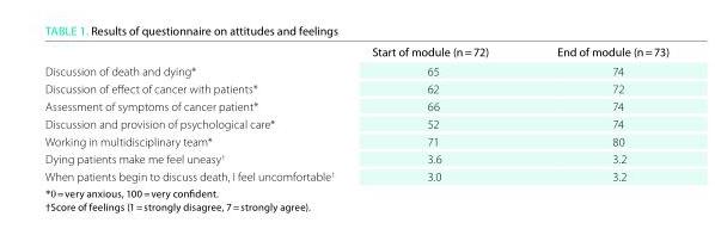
<table><thead><tr><td></td><td>Start of module (n = 72)</td><td>end of module (n = 73)</td></tr></thead><tbody><tr><td>Discussion of death and dying*</td><td>65</td><td>74</td></tr><tr><td>Discussion of effect of cancer with patients*</td><td>62</td><td>72</td></tr><tr><td>Assessment of symptoms of cancer patient*</td><td>66</td><td>74</td></tr><tr><td>Discussion and provision of psychological care*</td><td>52</td><td>74</td></tr><tr><td>Working in multidisciplinary team*</td><td>71</td><td>80</td></tr><tr><td>Dying patients make me feel uneasy<sup>†</sup></td><td>3.6</td><td>3.2</td></tr><tr><td>When patients begin to discuss death, I feel uncomfortable<sup>†</sup></td><td>3.0</td><td>3.2</td></tr></tbody></table>